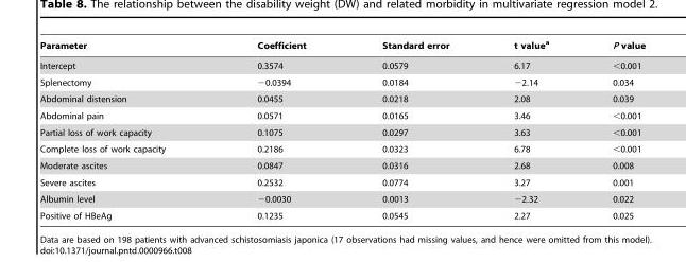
<table><thead><tr><td>Parameter</td><td>Coefficient</td><td>Standard error</td><td>t value<sup>a</sup></td><td>P value</td></tr></thead><tbody><tr><td>Intercept</td><td>0.3574</td><td>0.0579</td><td>6.17</td><td>&lt;0.001</td></tr><tr><td>Splenectomy</td><td>−0.0394</td><td>0.0184</td><td>−2.14</td><td>0.034</td></tr><tr><td>Abdominal distension</td><td>0.0455</td><td>0.0218</td><td>2.08</td><td>0.039</td></tr><tr><td>Abdominal pain</td><td>0.0571</td><td>0.0165</td><td>3.46</td><td>&lt;0.001</td></tr><tr><td>Partial loss of work capacity</td><td>0.1075</td><td>0.0297</td><td>3.63</td><td>&lt;0.001</td></tr><tr><td>Complete loss of work capacity</td><td>0.2186</td><td>0.0323</td><td>6.78</td><td>&lt;0.001</td></tr><tr><td>Moderate ascites</td><td>0.0847</td><td>0.0316</td><td>2.68</td><td>0.008</td></tr><tr><td>Severe ascites</td><td>0.2532</td><td>0.0774</td><td>3.27</td><td>0.001</td></tr><tr><td>Albumin level</td><td>−0.0030</td><td>0.0013</td><td>−2.32</td><td>0.022</td></tr><tr><td>Positive of HBeAg</td><td>0.1235</td><td>0.0545</td><td>2.27</td><td>0.025</td></tr></tbody></table>